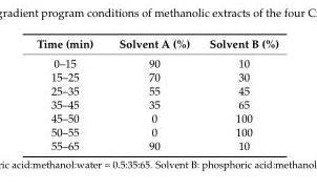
<table><thead><tr><td>Time (min)</td><td>Solvent A (%)</td><td>Solvent B (%)</td></tr></thead><tbody><tr><td>0–15</td><td>90</td><td>10</td></tr><tr><td>15–25</td><td>70</td><td>30</td></tr><tr><td>25–35</td><td>55</td><td>45</td></tr><tr><td>35–45</td><td>35</td><td>65</td></tr><tr><td>45–50</td><td>0</td><td>100</td></tr><tr><td>50–55</td><td>0</td><td>100</td></tr><tr><td>55–65</td><td>90</td><td>10</td></tr></tbody></table>